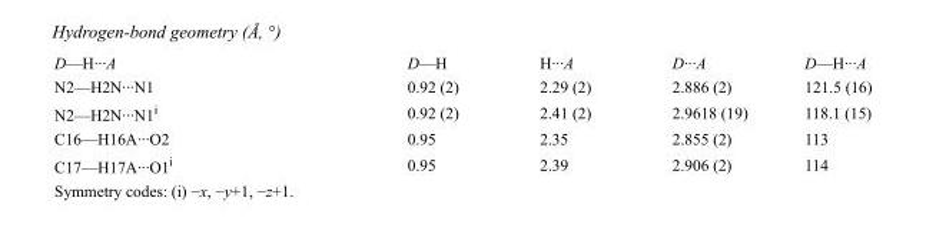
<table><tbody><tr><td>D—H···A</td><td>D—H</td><td>H···A</td><td>D···A</td><td>D—H···A</td></tr><tr><td>N2—H2N···N1</td><td>0.92 (2)</td><td>2.29 (2)</td><td>2.886 (2)</td><td>121.5 (16)</td></tr><tr><td>N2—H2N···N1<sup>i</sup></td><td>0.92 (2)</td><td>2.41 (2)</td><td>2.9618 (19)</td><td>118.1 (15)</td></tr><tr><td>C16—H16A···O2</td><td>0.95</td><td>2.35</td><td>2.855 (2)</td><td>113</td></tr><tr><td>C17—H17A···O1<sup>i</sup></td><td>0.95</td><td>2.39</td><td>2.906 (2)</td><td>114</td></tr></tbody></table>